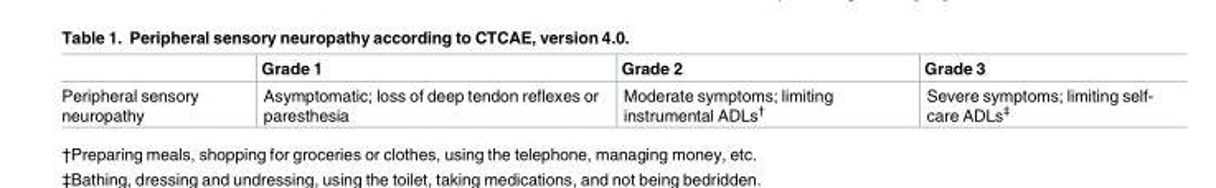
<table><thead><tr><td></td><td>Grade 1</td><td>Grade 2</td><td>Grade 3</td></tr></thead><tbody><tr><td>Peripheral sensory neuropathy</td><td>Asymptomatic; loss of deep tendon reflexes or paresthesia</td><td>Moderate symptoms; limiting instrumental ADLs<sup>†</sup></td><td>Severe symptoms; limiting self- care ADLs<sup>‡</sup></td></tr></tbody></table>